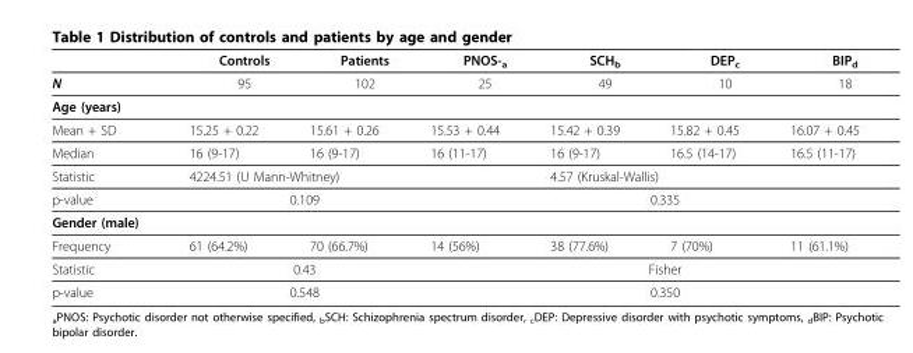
<table><thead><tr><td></td><td>Controls</td><td>Patients</td><td>PNOS-<sub>a</sub></td><td>SCH<sub>b</sub></td><td>DEP<sub>c</sub></td><td>BIP<sub>d</sub></td></tr></thead><tbody><tr><td>N</td><td>95</td><td>102</td><td>25</td><td>49</td><td>10</td><td>18</td></tr><tr><td colspan="7">Age (years)</td></tr><tr><td>Mean + SD</td><td>15.25 + 0.22</td><td>15.61 + 0.26</td><td>15.53 + 0.44</td><td>15.42 + 0.39</td><td>15.82 + 0.45</td><td>16.07 + 0.45</td></tr><tr><td>Median</td><td>16 (9-17)</td><td>16 (9-17)</td><td>16 (11-17)</td><td>16 (9-17)</td><td>16.5 (14-17)</td><td>16.5 (11-17)</td></tr><tr><td>Statistic</td><td colspan="2">4224.51 (U Mann-Whitney)</td><td></td><td colspan="2">4.57 (Kruskal-Wallis)</td><td></td></tr><tr><td>p-value</td><td colspan="2">0.109</td><td></td><td colspan="2">0.335</td><td></td></tr><tr><td colspan="7">Gender (male)</td></tr><tr><td>Frequency</td><td>61 (64.2%)</td><td>70 (66.7%)</td><td>14 (56%)</td><td>38 (77.6%)</td><td>7 (70%)</td><td>11 (61.1%)</td></tr><tr><td>Statistic</td><td colspan="2">0.43</td><td colspan="4">Fisher</td></tr><tr><td>p-value</td><td colspan="2">0.548</td><td colspan="4">0.350</td></tr></tbody></table>